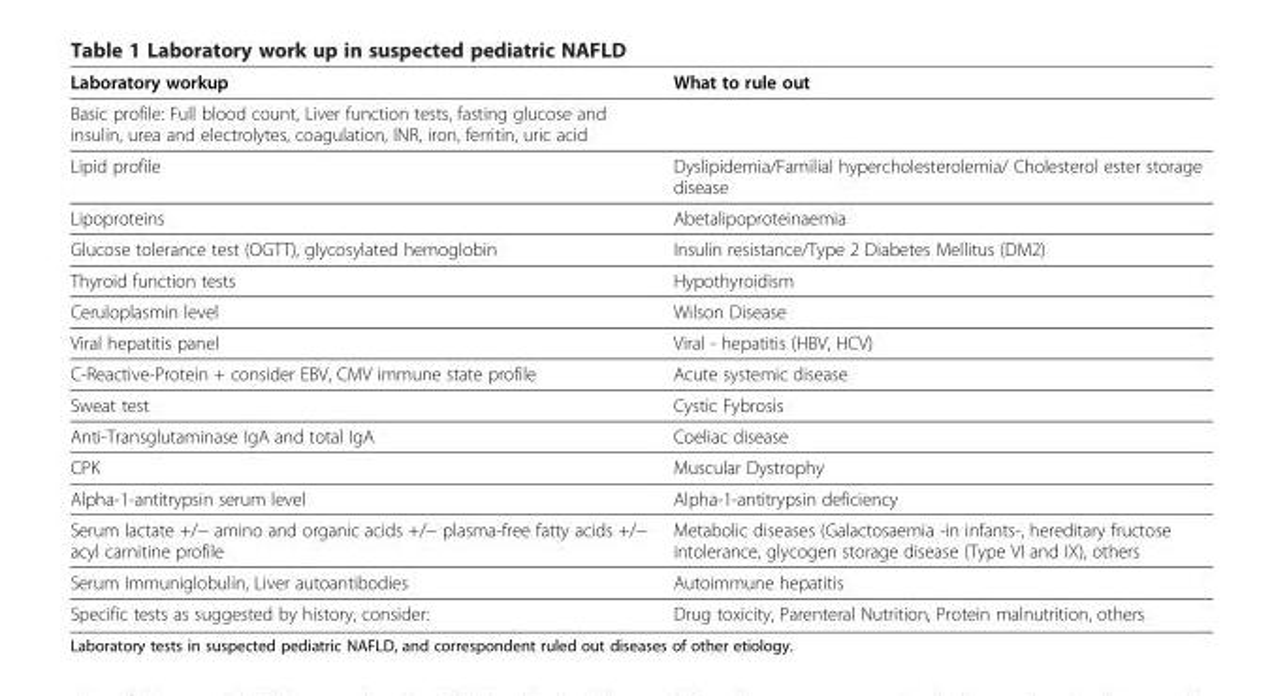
<table><thead><tr><td>Laboratory workup</td><td>What to rule out</td></tr></thead><tbody><tr><td colspan="2">Basic profile: Full blood count, Liver function tests, fasting glucose and insulin, urea and electrolytes, coagulation, INR, iron, ferritin, uric acid</td></tr><tr><td>Lipid profile</td><td>Dyslipidemia/Familial hypercholesterolemia/ Cholesterol ester storage disease</td></tr><tr><td>Lipoproteins</td><td>Abetalipoproteinaemia</td></tr><tr><td>Glucose tolerance test (OGTT), glycosylated hemoglobin</td><td>Insulin resistance/Type 2 Diabetes Mellitus (DM2)</td></tr><tr><td>Thyroid function tests</td><td>Hypothyroidism</td></tr><tr><td>Ceruloplasmin level</td><td>Wilson Disease</td></tr><tr><td>Viral hepatitis panel</td><td>Viral - hepatitis (HBV, HCV)</td></tr><tr><td>C-Reactive-Protein + consider EBV, CMV immune state profile</td><td>Acute systemic disease</td></tr><tr><td>Sweat test</td><td>Cystic Fybrosis</td></tr><tr><td>Anti-Transglutaminase IgA and total IgA</td><td>Coeliac disease</td></tr><tr><td>CPK</td><td>Muscular Dystrophy</td></tr><tr><td>Alpha-1-antitrypsin serum level</td><td>Alpha-1-antitrypsin deficiency</td></tr><tr><td>Serum lactate +/− amino and organic acids +/− plasma-free fatty acids +/− acyl carnitine profile</td><td>Metabolic diseases (Galactosaemia -in infants-, hereditary fructose intolerance, glycogen storage disease (Type VI and IX), others</td></tr><tr><td>Serum Immuniglobulin, Liver autoantibodies</td><td>Autoimmune hepatitis</td></tr><tr><td>Specific tests as suggested by history, consider:</td><td>Drug toxicity, Parenteral Nutrition, Protein malnutrition, others</td></tr></tbody></table>